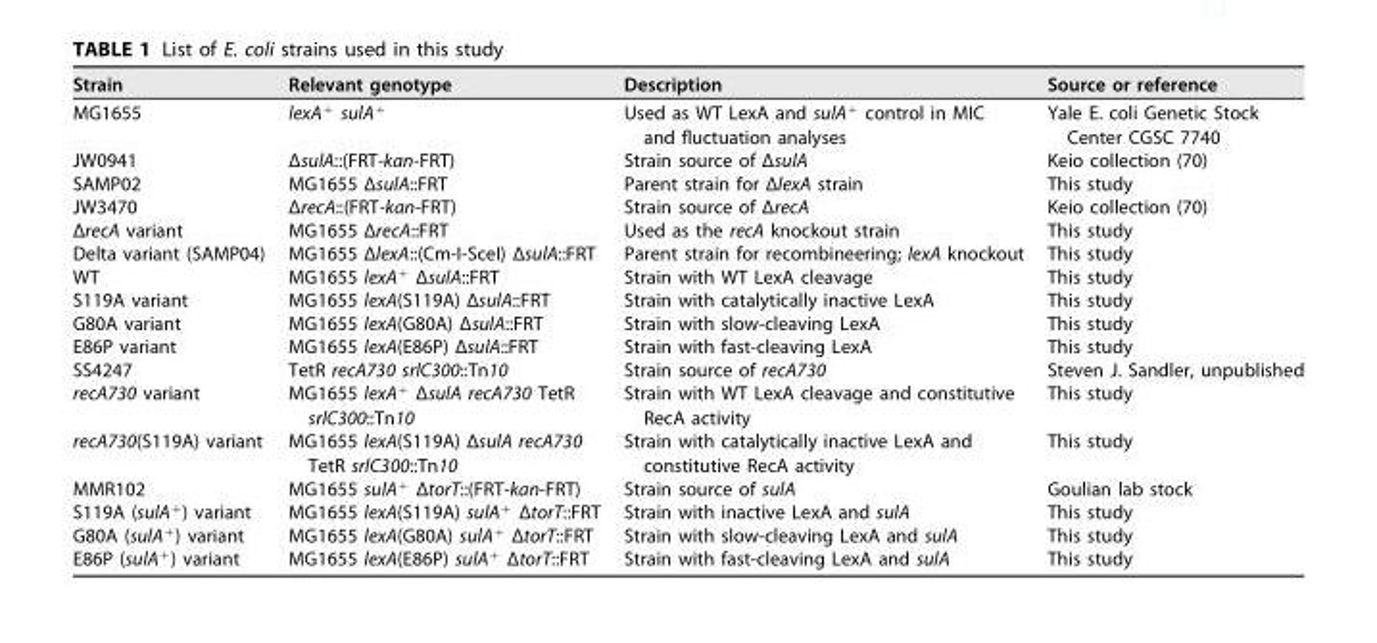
<table><thead><tr><td>Strain</td><td>Relevant genotype</td><td>Description</td><td>Source or reference</td></tr></thead><tbody><tr><td>MG1655</td><td>lexA<sup>+</sup> sulA<sup>+</sup></td><td>Used as WT LexA and sulA<sup>+</sup> control in MIC and fluctuation analyses</td><td>Yale E. coli Genetic Stock Center CGSC 7740</td></tr><tr><td>JW0941</td><td>ΔsulA::(FRT-kan-FRT)</td><td>Strain source of ΔsulA</td><td>Keio collection (70)</td></tr><tr><td>SAMP02</td><td>MG1655 ΔsulA::FRT</td><td>Parent strain for ΔlexA strain</td><td>This study</td></tr><tr><td>JW3470</td><td>ΔrecA::(FRT-kan-FRT)</td><td>Strain source of ΔrecA</td><td>Keio collection (70)</td></tr><tr><td>ΔrecA variant</td><td>MG1655 ΔrecA::FRT</td><td>Used as the recA knockout strain</td><td>This study</td></tr><tr><td>Delta variant (SAMP04)</td><td>MG1655 ΔlexA::(Cm-I-SceI) ΔsulA::FRT</td><td>Parent strain for recombineering; lexA knockout</td><td>This study</td></tr><tr><td>WT</td><td>MG1655 lexA<sup>+</sup> ΔsulA::FRT</td><td>Strain with WT LexA cleavage</td><td>This study</td></tr><tr><td>S119A variant</td><td>MG1655 lexA(S119A) ΔsulA::FRT</td><td>Strain with catalytically inactive LexA</td><td>This study</td></tr><tr><td>G80A variant</td><td>MG1655 lexA(G80A) ΔsulA::FRT</td><td>Strain with slow-cleaving LexA</td><td>This study</td></tr><tr><td>E86P variant</td><td>MG1655 lexA(E86P) ΔsulA::FRT</td><td>Strain with fast-cleaving LexA</td><td>This study</td></tr><tr><td>SS4247</td><td>TetR recA730 srlC300::Tn10</td><td>Strain source of recA730</td><td>Steven J. Sandler, unpublished</td></tr><tr><td>recA730 variant</td><td>MG1655 lexA<sup>+</sup> ΔsulA recA730 TetR srlC300::Tn10</td><td>Strain with WT LexA cleavage and constitutive RecA activity</td><td>This study</td></tr><tr><td>recA730(S119A) variant</td><td>MG1655 lexA(S119A) ΔsulA recA730 TetR srlC300::Tn10</td><td>Strain with catalytically inactive LexA and constitutive RecA activity</td><td>This study</td></tr><tr><td>MMR102</td><td>MG1655 sulA<sup>+</sup> ΔtorT::(FRT-kan-FRT)</td><td>Strain source of sulA</td><td>Goulian lab stock</td></tr><tr><td>S119A (sulA<sup>+</sup>) variant</td><td>MG1655 lexA(S119A) sulA<sup>+</sup> ΔtorT::FRT</td><td>Strain with inactive LexA and sulA</td><td>This study</td></tr><tr><td>G80A (sulA<sup>+</sup>) variant</td><td>MG1655 lexA(G80A) sulA<sup>+</sup> ΔtorT::FRT</td><td>Strain with slow-cleaving LexA and sulA</td><td>This study</td></tr><tr><td>E86P (sulA<sup>+</sup>) variant</td><td>MG1655 lexA(E86P) sulA<sup>+</sup> ΔtorT::FRT</td><td>Strain with fast-cleaving LexA and sulA</td><td>This study</td></tr></tbody></table>